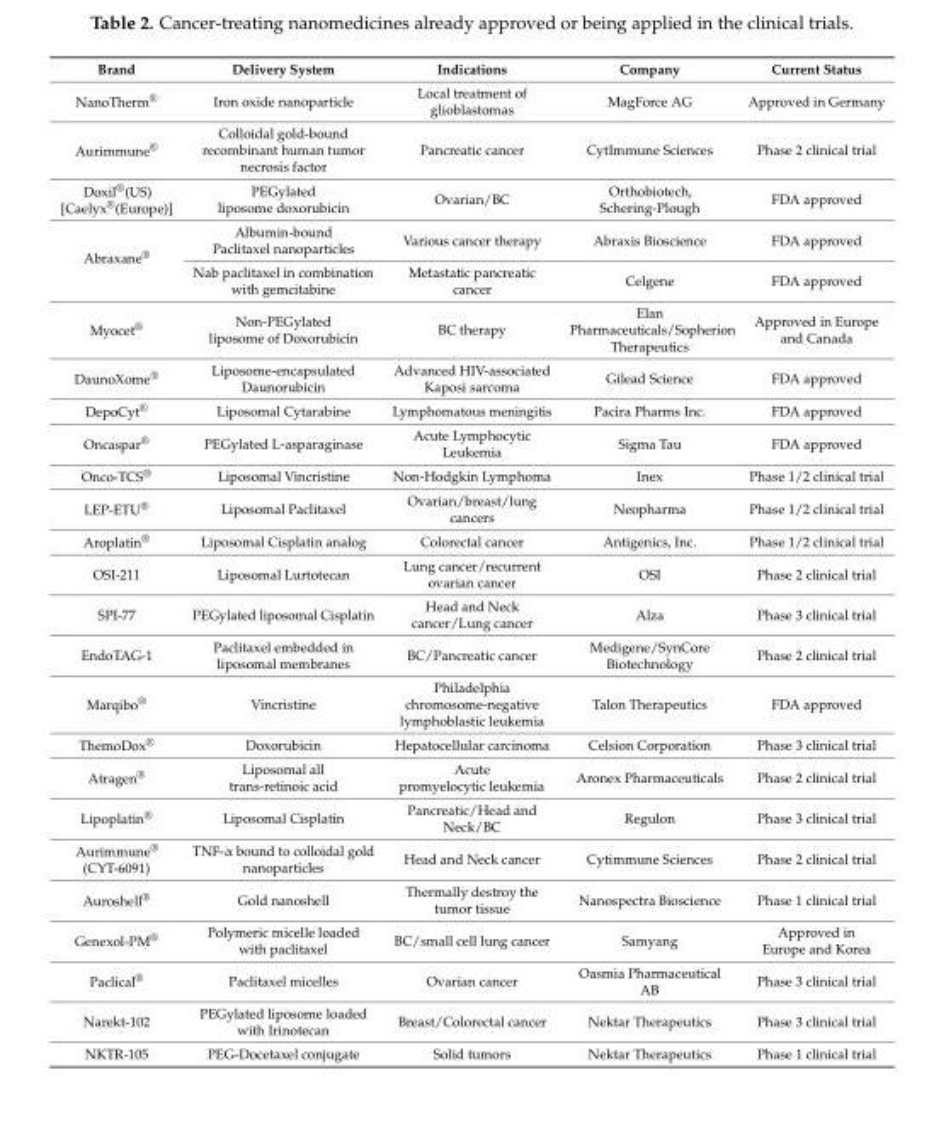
<table><thead><tr><td>Brand</td><td>Delivery System</td><td>Indications</td><td>Company</td><td>Current Status</td></tr></thead><tbody><tr><td>NanoTherm<sup>®</sup></td><td>Iron oxide nanoparticle</td><td>Local treatment of glioblastomas</td><td>MagForce AG</td><td>Approved in Germany</td></tr><tr><td>Aurimmune<sup>®</sup></td><td>Colloidal gold-bound recombinant human tumor necrosis factor</td><td>Pancreatic cancer</td><td>CytImmune Sciences</td><td>Phase 2 clinical trial</td></tr><tr><td>Doxil<sup>®</sup>(US) [Caelyx<sup>®</sup>(Europe)]</td><td>PEGylated liposome doxorubicin</td><td>Ovarian/BC</td><td>Orthobiotech, Schering-Plough</td><td>FDA approved</td></tr><tr><td rowspan="2">Abraxane<sup>®</sup></td><td>Albumin-bound Paclitaxel nanoparticles</td><td>Various cancer therapy</td><td>Abraxis Bioscience</td><td>FDA approved</td></tr><tr><td>Nab paclitaxel in combination with gemcitabine</td><td>Metastatic pancreatic cancer</td><td>Celgene</td><td>FDA approved</td></tr><tr><td>Myocet<sup>®</sup></td><td>Non-PEGylated liposome of Doxorubicin</td><td>BC therapy</td><td>Elan Pharmaceuticals/Sopherion Therapeutics</td><td>Approved in Europe and Canada</td></tr><tr><td>DaunoXome<sup>®</sup></td><td>Liposome-encapsulated Daunorubicin</td><td>Advanced HIV-associated Kaposi sarcoma</td><td>Gilead Science</td><td>FDA approved</td></tr><tr><td>DepoCyt<sup>®</sup></td><td>Liposomal Cytarabine</td><td>Lymphomatous meningitis</td><td>Pacira Pharms Inc.</td><td>FDA approved</td></tr><tr><td>Oncaspar<sup>®</sup></td><td>PEGylated L-asparaginase</td><td>Acute Lymphocytic Leukemia</td><td>Sigma Tau</td><td>FDA approved</td></tr><tr><td>Onco-TCS<sup>®</sup></td><td>Liposomal Vincristine</td><td>Non-Hodgkin Lymphoma</td><td>Inex</td><td>Phase 1/2 clinical trial</td></tr><tr><td>LEP-ETU<sup>®</sup></td><td>Liposomal Paclitaxel</td><td>Ovarian/breast/lung cancers</td><td>Neopharma</td><td>Phase 1/2 clinical trial</td></tr><tr><td>Aroplatin<sup>®</sup></td><td>Liposomal Cisplatin analog</td><td>Colorectal cancer</td><td>Antigenics, Inc.</td><td>Phase 1/2 clinical trial</td></tr><tr><td>OSI-211</td><td>Liposomal Lurtotecan</td><td>Lung cancer/recurrent ovarian cancer</td><td>OSI</td><td>Phase 2 clinical trial</td></tr><tr><td>SPI-77</td><td>PEGylated liposomal Cisplatin</td><td>Head and Neck cancer/Lung cancer</td><td>Alza</td><td>Phase 3 clinical trial</td></tr><tr><td>EndoTAG-1</td><td>Paclitaxel embedded in liposomal membranes</td><td>BC/Pancreatic cancer</td><td>Medigene/SynCore Biotechnology</td><td>Phase 2 clinical trial</td></tr><tr><td>Marqibo<sup>®</sup></td><td>Vincristine</td><td>Philadelphia chromosome-negative lymphoblastic leukemia</td><td>Talon Therapeutics</td><td>FDA approved</td></tr><tr><td>ThemoDox<sup>®</sup></td><td>Doxorubicin</td><td>Hepatocellular carcinoma</td><td>Celsion Corporation</td><td>Phase 3 clinical trial</td></tr><tr><td>Atragen<sup>®</sup></td><td>Liposomal all trans-retinoic acid</td><td>Acute promyelocytic leukemia</td><td>Aronex Pharmaceuticals</td><td>Phase 2 clinical trial</td></tr><tr><td>Lipoplatin<sup>®</sup></td><td>Liposomal Cisplatin</td><td>Pancreatic/Head and Neck/BC</td><td>Regulon</td><td>Phase 3 clinical trial</td></tr><tr><td>Aurimmune<sup>®</sup> (CYT-6091)</td><td>TNF-α bound to colloidal gold nanoparticles</td><td>Head and Neck cancer</td><td>Cytimmune Sciences</td><td>Phase 2 clinical trial</td></tr><tr><td>Auroshell<sup>®</sup></td><td>Gold nanoshell</td><td>Thermally destroy the tumor tissue</td><td>Nanospectra Bioscience</td><td>Phase 1 clinical trial</td></tr><tr><td>Genexol-PM<sup>®</sup></td><td>Polymeric micelle loaded with paclitaxel</td><td>BC/small cell lung cancer</td><td>Samyang</td><td>Approved in Europe and Korea</td></tr><tr><td>Paclical<sup>®</sup></td><td>Paclitaxel micelles</td><td>Ovarian cancer</td><td>Oasmia Pharmaceutical AB</td><td>Phase 3 clinical trial</td></tr><tr><td>Narekt-102</td><td>PEGylated liposome loaded with Irinotecan</td><td>Breast/Colorectal cancer</td><td>Nektar Therapeutics</td><td>Phase 3 clinical trial</td></tr><tr><td>NKTR-105</td><td>PEG-Docetaxel conjugate</td><td>Solid tumors</td><td>Nektar Therapeutics</td><td>Phase 1 clinical trial</td></tr></tbody></table>